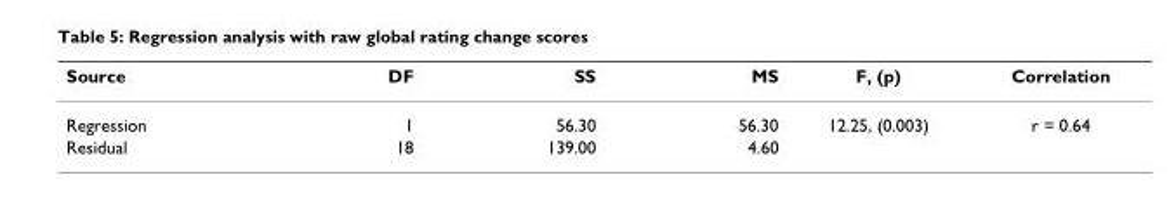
<table><thead><tr><td>Source</td><td>DF</td><td>SS</td><td>MS</td><td>F, (p)</td><td>Correlation</td></tr></thead><tbody><tr><td>Regression</td><td>1</td><td>56.30</td><td>56.30</td><td>12.25, (0.003)</td><td>r = 0.64</td></tr><tr><td>Residual</td><td>18</td><td>139.00</td><td>4.60</td><td></td><td></td></tr></tbody></table>